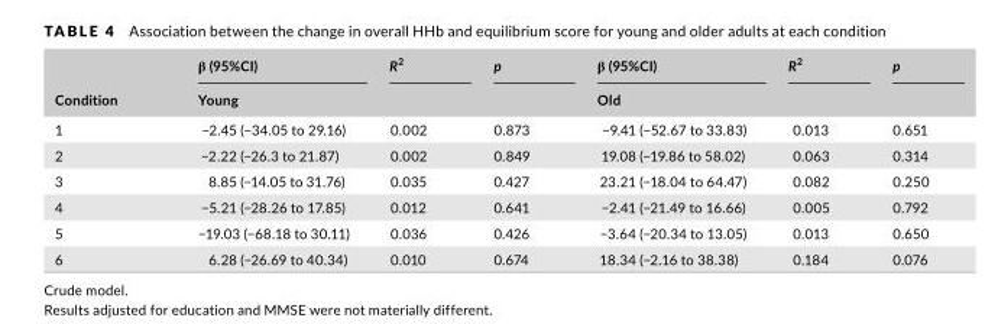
<table><thead><tr><td rowspan="2">Condition</td><td>β (95%CI)</td><td>R<sup>2</sup></td><td>p</td><td>β (95%CI)</td><td>R<sup>2</sup></td><td>p</td></tr><tr><td colspan="3">Young</td><td colspan="3">Old</td></tr></thead><tbody><tr><td>1</td><td>−2.45 (−34.05 to 29.16)</td><td>0.002</td><td>0.873</td><td>−9.41 (−52.67 to 33.83)</td><td>0.013</td><td>0.651</td></tr><tr><td>2</td><td>−2.22 (−26.3 to 21.87)</td><td>0.002</td><td>0.849</td><td>19.08 (−19.86 to 58.02)</td><td>0.063</td><td>0.314</td></tr><tr><td>3</td><td>8.85 (−14.05 to 31.76)</td><td>0.035</td><td>0.427</td><td>23.21 (−18.04 to 64.47)</td><td>0.082</td><td>0.250</td></tr><tr><td>4</td><td>−5.21 (−28.26 to 17.85)</td><td>0.012</td><td>0.641</td><td>−2.41 (−21.49 to 16.66)</td><td>0.005</td><td>0.792</td></tr><tr><td>5</td><td>−19.03 (−68.18 to 30.11)</td><td>0.036</td><td>0.426</td><td>−3.64 (−20.34 to 13.05)</td><td>0.013</td><td>0.650</td></tr><tr><td>6</td><td>6.28 (−26.69 to 40.34)</td><td>0.010</td><td>0.674</td><td>18.34 (−2.16 to 38.38)</td><td>0.184</td><td>0.076</td></tr></tbody></table>